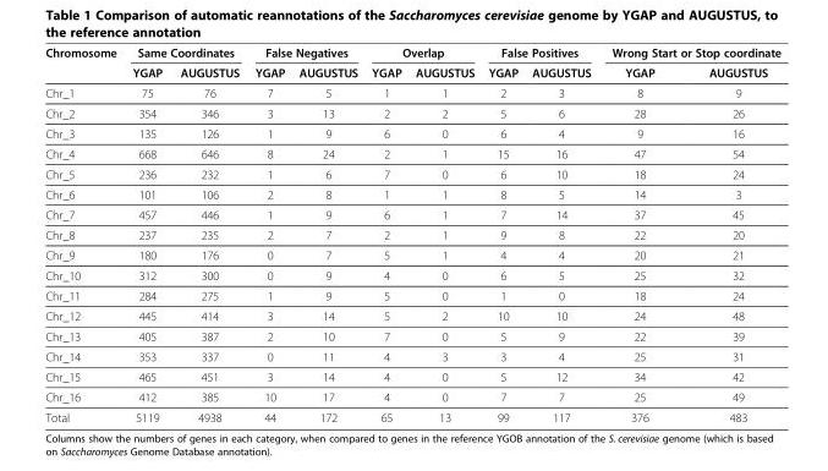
<table><thead><tr><td rowspan="2">Chromosome</td><td colspan="2">Same Coordinates</td><td colspan="2">False Negatives</td><td colspan="2">Overlap</td><td colspan="2">False Positives</td><td colspan="2">Wrong Start or Stop coordinate</td></tr><tr><td>YGAP</td><td>AUGUSTUS</td><td>YGAP</td><td>AUGUSTUS</td><td>YGAP</td><td>AUGUSTUS</td><td>YGAP</td><td>AUGUSTUS</td><td>YGAP</td><td>AUGUSTUS</td></tr></thead><tbody><tr><td>Chr_1</td><td>75</td><td>76</td><td>7</td><td>5</td><td>1</td><td>1</td><td>2</td><td>3</td><td>8</td><td>9</td></tr><tr><td>Chr_2</td><td>354</td><td>346</td><td>3</td><td>13</td><td>2</td><td>2</td><td>5</td><td>6</td><td>28</td><td>26</td></tr><tr><td>Chr_3</td><td>135</td><td>126</td><td>1</td><td>9</td><td>6</td><td>0</td><td>6</td><td>4</td><td>9</td><td>16</td></tr><tr><td>Chr_4</td><td>668</td><td>646</td><td>8</td><td>24</td><td>2</td><td>1</td><td>15</td><td>16</td><td>47</td><td>54</td></tr><tr><td>Chr_5</td><td>236</td><td>232</td><td>1</td><td>6</td><td>7</td><td>0</td><td>6</td><td>10</td><td>18</td><td>24</td></tr><tr><td>Chr_6</td><td>101</td><td>106</td><td>2</td><td>8</td><td>1</td><td>1</td><td>8</td><td>5</td><td>14</td><td>3</td></tr><tr><td>Chr_7</td><td>457</td><td>446</td><td>1</td><td>9</td><td>6</td><td>1</td><td>7</td><td>14</td><td>37</td><td>45</td></tr><tr><td>Chr_8</td><td>237</td><td>235</td><td>2</td><td>7</td><td>2</td><td>1</td><td>9</td><td>8</td><td>22</td><td>20</td></tr><tr><td>Chr_9</td><td>180</td><td>176</td><td>0</td><td>7</td><td>5</td><td>1</td><td>4</td><td>4</td><td>20</td><td>21</td></tr><tr><td>Chr_10</td><td>312</td><td>300</td><td>0</td><td>9</td><td>4</td><td>0</td><td>6</td><td>5</td><td>25</td><td>32</td></tr><tr><td>Chr_11</td><td>284</td><td>275</td><td>1</td><td>9</td><td>5</td><td>0</td><td>1</td><td>0</td><td>18</td><td>24</td></tr><tr><td>Chr_12</td><td>445</td><td>414</td><td>3</td><td>14</td><td>5</td><td>2</td><td>10</td><td>10</td><td>24</td><td>48</td></tr><tr><td>Chr_13</td><td>405</td><td>387</td><td>2</td><td>10</td><td>7</td><td>0</td><td>5</td><td>9</td><td>22</td><td>39</td></tr><tr><td>Chr_14</td><td>353</td><td>337</td><td>0</td><td>11</td><td>4</td><td>3</td><td>3</td><td>4</td><td>25</td><td>31</td></tr><tr><td>Chr_15</td><td>465</td><td>451</td><td>3</td><td>14</td><td>4</td><td>0</td><td>5</td><td>12</td><td>34</td><td>42</td></tr><tr><td>Chr_16</td><td>412</td><td>385</td><td>10</td><td>17</td><td>4</td><td>0</td><td>7</td><td>7</td><td>25</td><td>49</td></tr><tr><td>Total</td><td>5119</td><td>4938</td><td>44</td><td>172</td><td>65</td><td>13</td><td>99</td><td>117</td><td>376</td><td>483</td></tr></tbody></table>